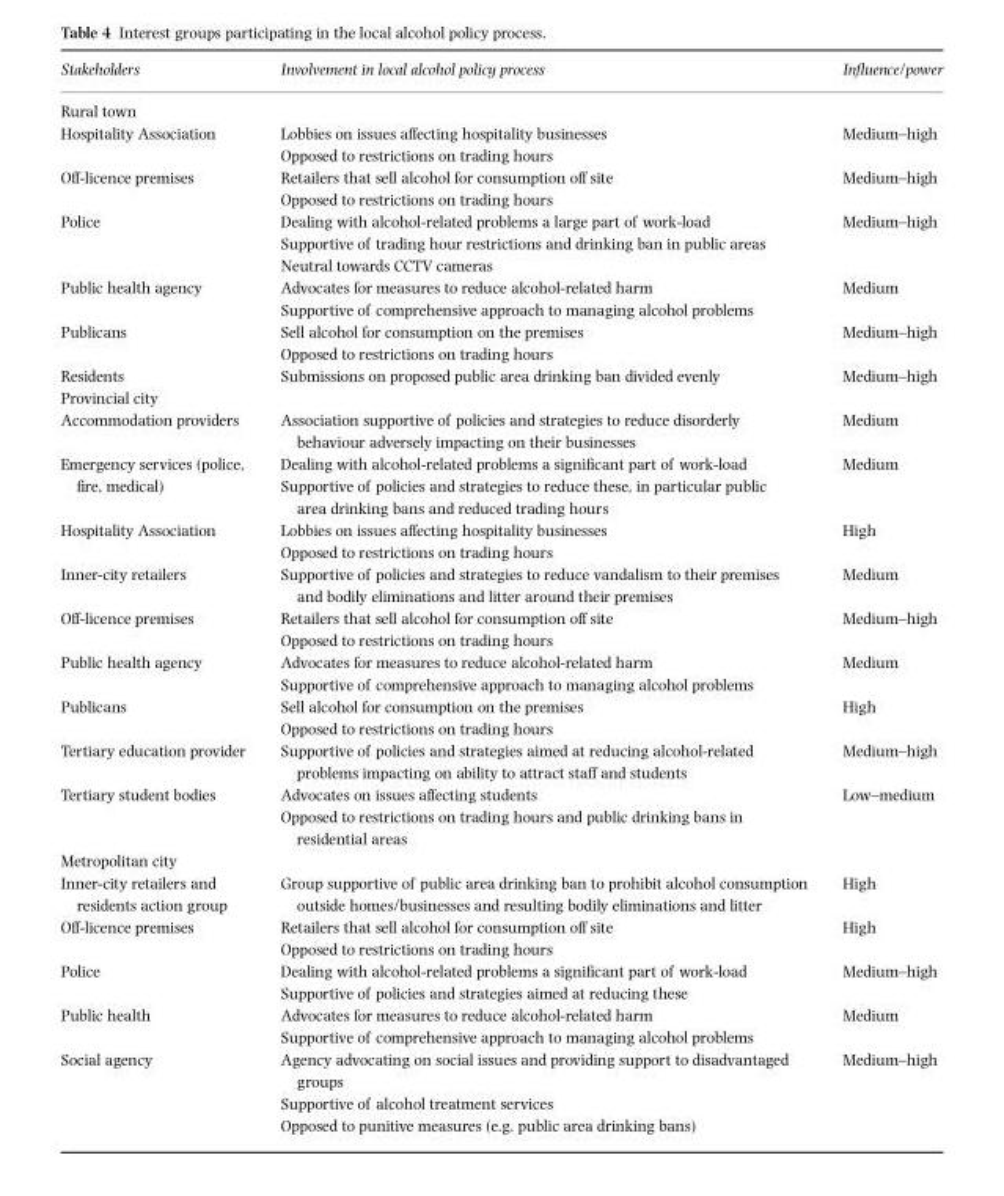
<table><thead><tr><td>Stakeholders</td><td>Involvement in local alcohol policy process</td><td>Influence/power</td></tr></thead><tbody><tr><td colspan="3">Rural town</td></tr><tr><td>Hospitality Association</td><td>Lobbies on issues affecting hospitality businesses Opposed to restrictions on trading hours</td><td>Medium–high</td></tr><tr><td>Off-licence premises</td><td>Retailers that sell alcohol for consumption off site Opposed to restrictions on trading hours</td><td>Medium–high</td></tr><tr><td>Police</td><td>Dealing with alcohol-related problems a large part of work-load Supportive of trading hour restrictions and drinking ban in public areas Neutral towards CCTV cameras</td><td>Medium–high</td></tr><tr><td>Public health agency</td><td>Advocates for measures to reduce alcohol-related harm Supportive of comprehensive approach to managing alcohol problems</td><td>Medium</td></tr><tr><td>Publicans</td><td>Sell alcohol for consumption on the premises Opposed to restrictions on trading hours</td><td>Medium–high</td></tr><tr><td>Residents</td><td>Submissions on proposed public area drinking ban divided evenly</td><td>Medium–high</td></tr><tr><td colspan="3">Provincial city</td></tr><tr><td>Accommodation providers</td><td>Association supportive of policies and strategies to reduce disorderly behaviour adversely impacting on their businesses</td><td>Medium</td></tr><tr><td>Emergency services (police, fire, medical)</td><td>Dealing with alcohol-related problems a significant part of work-load Supportive of policies and strategies to reduce these, in particular public area drinking bans and reduced trading hours</td><td>Medium</td></tr><tr><td>Hospitality Association</td><td>Lobbies on issues affecting hospitality businesses Opposed to restrictions on trading hours</td><td>High</td></tr><tr><td>Inner-city retailers</td><td>Supportive of policies and strategies to reduce vandalism to their premises and bodily eliminations and litter around their premises</td><td>Medium</td></tr><tr><td>Off-licence premises</td><td>Retailers that sell alcohol for consumption off site Opposed to restrictions on trading hours</td><td>Medium–high</td></tr><tr><td>Public health agency</td><td>Advocates for measures to reduce alcohol-related harm Supportive of comprehensive approach to managing alcohol problems</td><td>Medium</td></tr><tr><td>Publicans</td><td>Sell alcohol for consumption on the premises Opposed to restrictions on trading hours</td><td>High</td></tr><tr><td>Tertiary education provider</td><td>Supportive of policies and strategies aimed at reducing alcohol-related problems impacting on ability to attract staff and students</td><td>Medium–high</td></tr><tr><td>Tertiary student bodies</td><td>Advocates on issues affecting students Opposed to restrictions on trading hours and public drinking bans in residential areas</td><td>Low–medium</td></tr><tr><td colspan="3">Metropolitan city</td></tr><tr><td>Inner-city retailers and residents action group</td><td>Group supportive of public area drinking ban to prohibit alcohol consumption outside homes/businesses and resulting bodily eliminations and litter</td><td>High</td></tr><tr><td>Off-licence premises</td><td>Retailers that sell alcohol for consumption off site Opposed to restrictions on trading hours</td><td>High</td></tr><tr><td>Police</td><td>Dealing with alcohol-related problems a significant part of work-load Supportive of policies and strategies aimed at reducing these</td><td>Medium–high</td></tr><tr><td>Public health</td><td>Advocates for measures to reduce alcohol-related harm Supportive of comprehensive approach to managing alcohol problems</td><td>Medium</td></tr><tr><td>Social agency</td><td>Agency advocating on social issues and providing support to disadvantaged groups Supportive of alcohol treatment services Opposed to punitive measures (e.g. public area drinking bans)</td><td>Medium–high</td></tr></tbody></table>